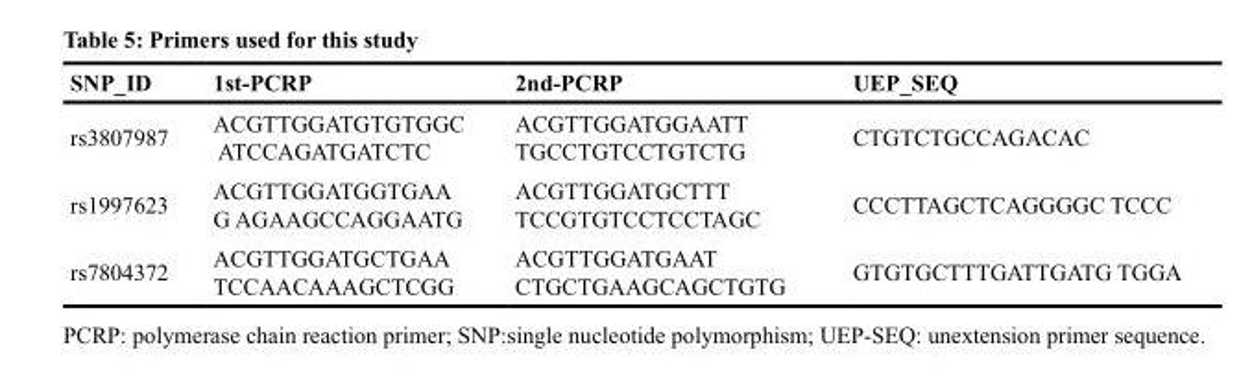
<table><thead><tr><td>SNP_ID</td><td>1st-PCRP</td><td>2nd-PCRP</td><td>UEP_SEQ</td></tr></thead><tbody><tr><td>rs3807987</td><td>ACGTTGGATGTGTGGC ATCCAGATGATCTC</td><td>ACGTTGGATGGAATT TGCCTGTCCTGTCTG</td><td>CTGTCTGCCAGACAC</td></tr><tr><td>rs1997623</td><td>ACGTTGGATGGTGAA G AGAAGCCAGGAATG</td><td>ACGTTGGATGCTTT TCCGTGTCCTCCTAGC</td><td>CCCTTAGCTCAGGGGC TCCC</td></tr><tr><td>rs7804372</td><td>ACGTTGGATGCTGAA TCCAACAAAGCTCGG</td><td>ACGTTGGATGAAT CTGCTGAAGCAGCTGTG</td><td>GTGTGCTTTGATTGATG TGGA</td></tr></tbody></table>